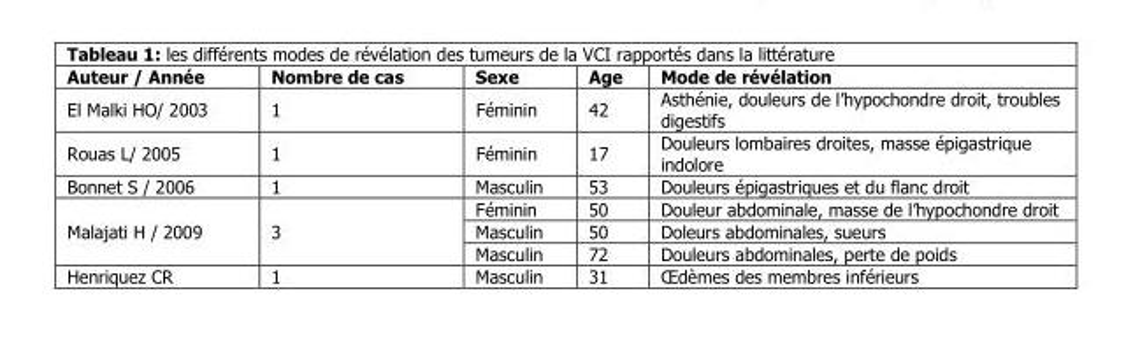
<table><thead><tr><td>Auteur / Année</td><td>Nombre de cas</td><td>Sexe</td><td>Age</td><td>Mode de révélation</td></tr></thead><tbody><tr><td>El Malki HO/ 2003</td><td>1</td><td>Féminin</td><td>42</td><td>Asthénie, douleurs de l’hypochondre droit, troubles digestifs</td></tr><tr><td>Rouas L/ 2005</td><td>1</td><td>Féminin</td><td>17</td><td>Douleurs lombaires droites, masse épigastrique indolore</td></tr><tr><td>Bonnet S / 2006</td><td>1</td><td>Masculin</td><td>53</td><td>Douleurs épigastriques et du flanc droit</td></tr><tr><td rowspan="3">Malajati H / 2009</td><td rowspan="3">3</td><td>Féminin</td><td>50</td><td>Douleur abdominale, masse de l’hypochondre droit</td></tr><tr><td>Masculin</td><td>50</td><td>Doleurs abdominales, sueurs</td></tr><tr><td>Masculin</td><td>72</td><td>Douleurs abdominales, perte de poids</td></tr><tr><td>Henriquez CR</td><td>1</td><td>Masculin</td><td>31</td><td>Œdèmes des membres inférieurs</td></tr></tbody></table>